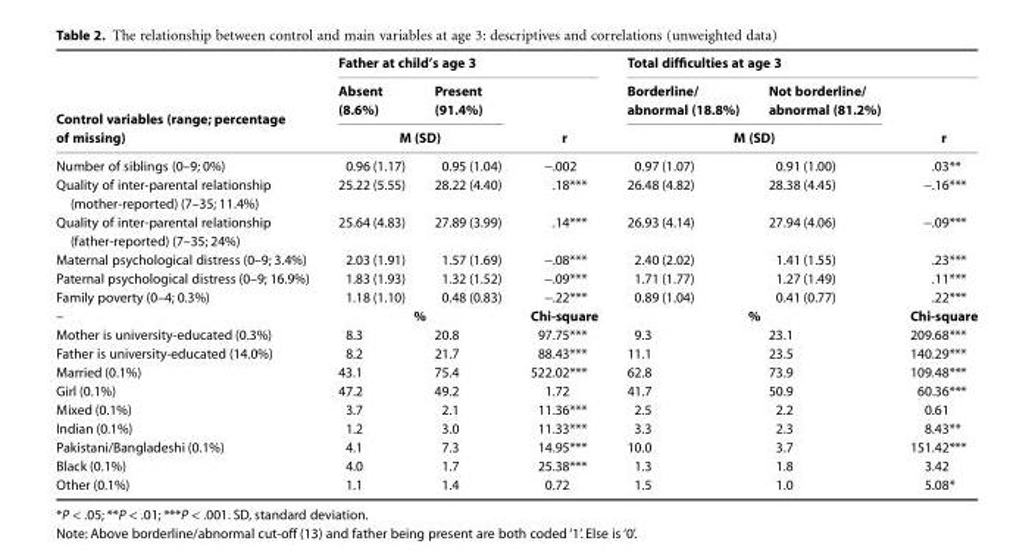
<table><thead><tr><td rowspan="3">Control variables (range; percentage of missing)</td><td colspan="3">Father at child’s age 3</td><td colspan="3">Total difficulties at age 3</td></tr><tr><td>Absent (8.6%)</td><td>Present (91.4%)</td><td rowspan="2">r</td><td>Borderline/ abnormal (18.8%)</td><td>Not borderline/ abnormal (81.2%)</td><td rowspan="2">r</td></tr><tr><td colspan="2">M (SD)</td><td colspan="2">M (SD)</td></tr></thead><tbody><tr><td>Number of siblings (0–9; 0%)</td><td>0.96 (1.17)</td><td>0.95 (1.04)</td><td>−.002</td><td>0.97 (1.07)</td><td>0.91 (1.00)</td><td>.03**</td></tr><tr><td>Quality of inter-parental relationship (mother-reported) (7–35; 11.4%)</td><td>25.22 (5.55)</td><td>28.22 (4.40)</td><td>.18***</td><td>26.48 (4.82)</td><td>28.38 (4.45)</td><td>−.16***</td></tr><tr><td>Quality of inter-parental relationship (father-reported) (7–35; 24%)</td><td>25.64 (4.83)</td><td>27.89 (3.99)</td><td>.14***</td><td>26.93 (4.14)</td><td>27.94 (4.06)</td><td>−.09***</td></tr><tr><td>Maternal psychological distress (0–9; 3.4%)</td><td>2.03 (1.91)</td><td>1.57 (1.69)</td><td>−.08***</td><td>2.40 (2.02)</td><td>1.41 (1.55)</td><td>.23***</td></tr><tr><td>Paternal psychological distress (0–9; 16.9%)</td><td>1.83 (1.93)</td><td>1.32 (1.52)</td><td>−.09***</td><td>1.71 (1.77)</td><td>1.27 (1.49)</td><td>.11***</td></tr><tr><td>Family poverty (0–4; 0.3%)</td><td>1.18 (1.10)</td><td>0.48 (0.83)</td><td>−.22***</td><td>0.89 (1.04)</td><td>0.41 (0.77)</td><td>.22***</td></tr><tr><td>–</td><td colspan="2">%</td><td>Chi-square</td><td colspan="2">%</td><td>Chi-square</td></tr><tr><td>Mother is university-educated (0.3%)</td><td>8.3</td><td>20.8</td><td>97.75***</td><td>9.3</td><td>23.1</td><td>209.68***</td></tr><tr><td>Father is university-educated (14.0%)</td><td>8.2</td><td>21.7</td><td>88.43***</td><td>11.1</td><td>23.5</td><td>140.29***</td></tr><tr><td>Married (0.1%)</td><td>43.1</td><td>75.4</td><td>522.02***</td><td>62.8</td><td>73.9</td><td>109.48***</td></tr><tr><td>Girl (0.1%)</td><td>47.2</td><td>49.2</td><td>1.72</td><td>41.7</td><td>50.9</td><td>60.36***</td></tr><tr><td>Mixed (0.1%)</td><td>3.7</td><td>2.1</td><td>11.36***</td><td>2.5</td><td>2.2</td><td>0.61</td></tr><tr><td>Indian (0.1%)</td><td>1.2</td><td>3.0</td><td>11.33***</td><td>3.3</td><td>2.3</td><td>8.43**</td></tr><tr><td>Pakistani/Bangladeshi (0.1%)</td><td>4.1</td><td>7.3</td><td>14.95***</td><td>10.0</td><td>3.7</td><td>151.42***</td></tr><tr><td>Black (0.1%)</td><td>4.0</td><td>1.7</td><td>25.38***</td><td>1.3</td><td>1.8</td><td>3.42</td></tr><tr><td>Other (0.1%)</td><td>1.1</td><td>1.4</td><td>0.72</td><td>1.5</td><td>1.0</td><td>5.08*</td></tr></tbody></table>